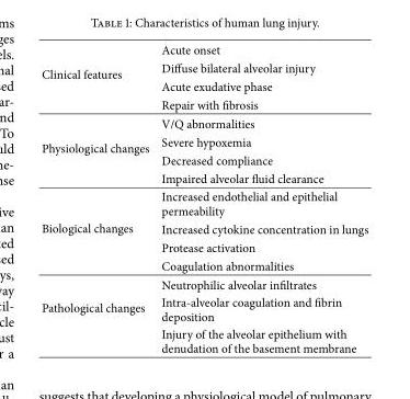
<table><tbody><tr><td rowspan="4">Clinical features</td><td>Acute onset</td></tr><tr><td>Diffuse bilateral alveolar injury</td></tr><tr><td>Acute exudative phase</td></tr><tr><td>Repair with fibrosis</td></tr><tr><td rowspan="4">Physiological changes</td><td>V/Q abnormalities</td></tr><tr><td>Severe hypoxemia</td></tr><tr><td>Decreased compliance</td></tr><tr><td>Impaired alveolar fluid clearance</td></tr><tr><td rowspan="4">Biological changes</td><td>Increased endothelial and epithelial permeability</td></tr><tr><td>Increased cytokine concentration in lungs</td></tr><tr><td>Protease activation</td></tr><tr><td>Coagulation abnormalities</td></tr><tr><td rowspan="3">Pathological changes</td><td>Neutrophilic alveolar infiltrates</td></tr><tr><td>Intra-alveolar coagulation and fibrin deposition</td></tr><tr><td>Injury of the alveolar epithelium with denudation of the basement membrane</td></tr></tbody></table>